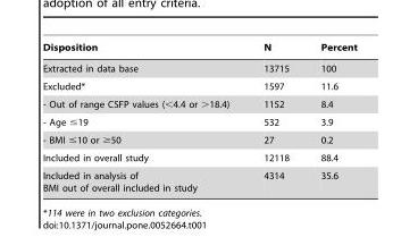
<table><thead><tr><td>Disposition</td><td>N</td><td>Percent</td></tr></thead><tbody><tr><td>Extracted in data base</td><td>13715</td><td>100</td></tr><tr><td>Excluded*</td><td>1597</td><td>11.6</td></tr><tr><td>- Out of range CSFP values (&lt;4.4 or &gt;18.4)</td><td>1152</td><td>8.4</td></tr><tr><td>- Age ≤19</td><td>532</td><td>3.9</td></tr><tr><td>- BMI ≤10 or ≥50</td><td>27</td><td>0.2</td></tr><tr><td>Included in overall study</td><td>12118</td><td>88.4</td></tr><tr><td>Included in analysis of BMI out of overall included in study</td><td>4314</td><td>35.6</td></tr></tbody></table>